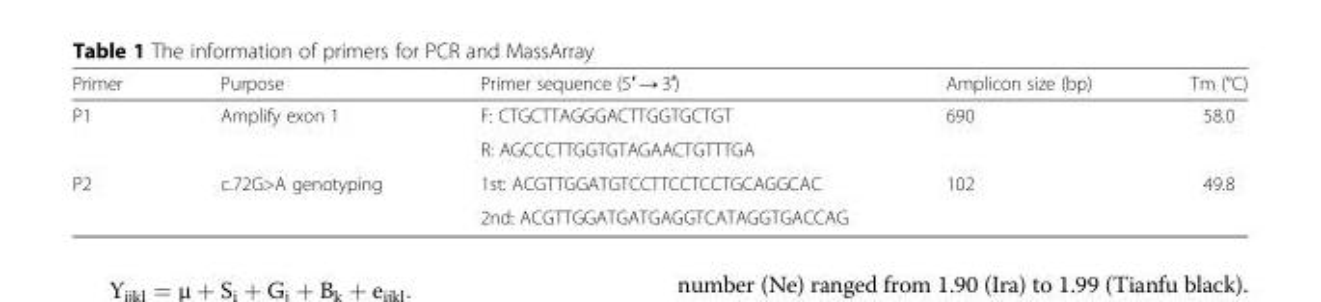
<table><thead><tr><td>Primer</td><td>Purpose</td><td>Primer sequence (5′ → 3′)</td><td>Amplicon size (bp)</td><td>Tm (°C)</td></tr></thead><tbody><tr><td rowspan="2">P1</td><td rowspan="2">Amplify exon 1</td><td>F: CTGCTTAGGGACTTGGTGCTGT</td><td rowspan="2">690</td><td rowspan="2">58.0</td></tr><tr><td>R: AGCCCTTGGTGTAGAACTGTTTGA</td></tr><tr><td rowspan="2">P2</td><td rowspan="2">c.72G&gt;A genotyping</td><td>1st: ACGTTGGATGTCCTTCCTCCTGCAGGCAC</td><td rowspan="2">102</td><td rowspan="2">49.8</td></tr><tr><td>2nd: ACGTTGGATGATGAGGTCATAGGTGACCAG</td></tr></tbody></table>